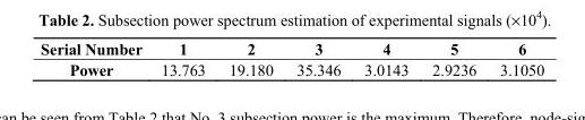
<table><thead><tr><td>Serial Number</td><td>1</td><td>2</td><td>3</td><td>4</td><td>5</td><td>6</td></tr></thead><tbody><tr><td>Power</td><td>13.763</td><td>19.180</td><td>35.346</td><td>3.0143</td><td>2.9236</td><td>3.1050</td></tr></tbody></table>